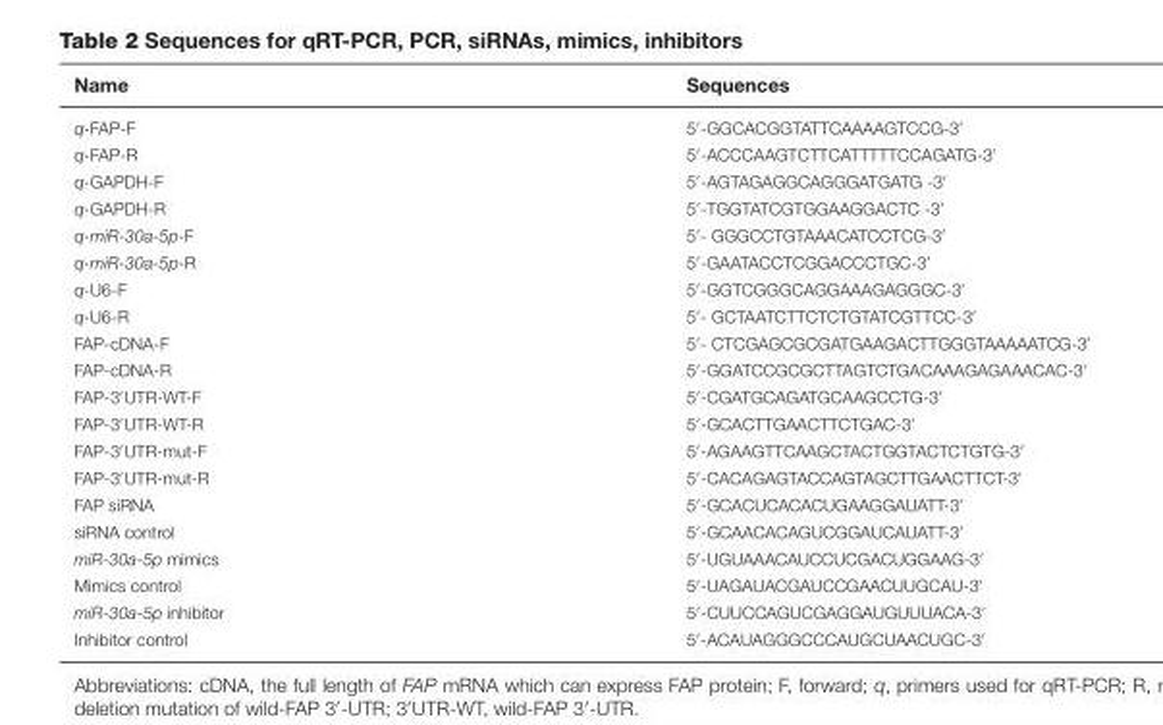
<table><thead><tr><td>Name</td><td>Sequences</td></tr></thead><tbody><tr><td>q-FAP-F</td><td>5′-GGCACGGTATTCAAAAGTCCG-3′</td></tr><tr><td>q-FAP-R</td><td>5′-ACCCAAGTCTTCATTTTTCCAGATG-3′</td></tr><tr><td>q-GAPDH-F</td><td>5′-AGTAGAGGCAGGGATGATG -3′</td></tr><tr><td>q-GAPDH-R</td><td>5′-TGGTATCGTGGAAGGACTC -3′</td></tr><tr><td>q-miR-30a-5p-F</td><td>5′- GGGCCTGTAAACATCCTCG-3′</td></tr><tr><td>q-miR-30a-5p-R</td><td>5′-GAATACCTCGGACCCTGC-3′</td></tr><tr><td>q-U6-F</td><td>5′-GGTCGGGCAGGAAAGAGGGC-3′</td></tr><tr><td>q-U6-R</td><td>5′- GCTAATCTTCTCTGTATCGTTCC-3′</td></tr><tr><td>FAP-cDNA-F</td><td>5′- CTCGAGCGCGATGAAGACTTGGGTAAAAATCG-3′</td></tr><tr><td>FAP-cDNA-R</td><td>5′-GGATCCGCGCTTAGTCTGACAAAGAGAAACAC-3′</td></tr><tr><td>FAP-3′UTR-WT-F</td><td>5′-CGATGCAGATGCAAGCCTG-3′</td></tr><tr><td>FAP-3′UTR-WT-R</td><td>5′-GCACTTGAACTTCTGAC-3′</td></tr><tr><td>FAP-3′UTR-mut-F</td><td>5′-AGAAGTTCAAGCTACTGGTACTCTGTG-3′</td></tr><tr><td>FAP-3′UTR-mut-R</td><td>5′-CACAGAGTACCAGTAGCTTGAACTTCT-3′</td></tr><tr><td>FAP siRNA</td><td>5′-GCACUCACACUGAAGGAUATT-3′</td></tr><tr><td>siRNA control</td><td>5′-GCAACACAGUCGGAUCAUATT-3′</td></tr><tr><td>miR-30a-5p mimics</td><td>5′-UGUAAACAUCCUCGACUGGAAG-3′</td></tr><tr><td>Mimics control</td><td>5′-UAGAUACGAUCCGAACUUGCAU-3′</td></tr><tr><td>miR-30a-5p inhibitor</td><td>5′-CUUCCAGUCGAGGAUGUUUACA-3′</td></tr><tr><td>Inhibitor control</td><td>5′-ACAUAGGGCCCAUGCUAACUGC-3′</td></tr></tbody></table>